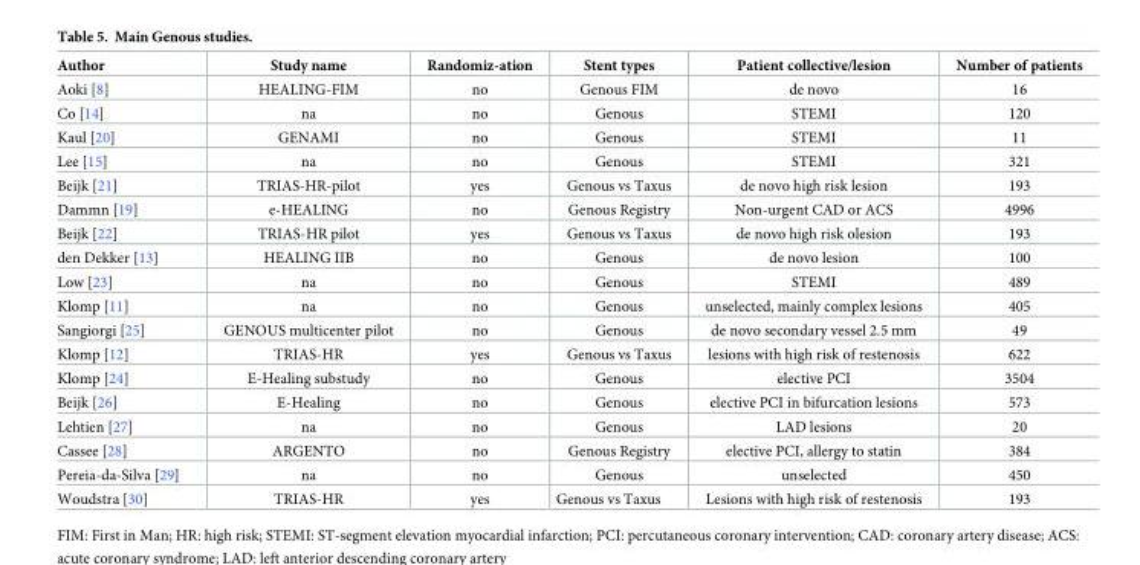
<table><thead><tr><td>Author</td><td>Study name</td><td>Randomiz-ation</td><td>Stent types</td><td>Patient collective/lesion</td><td>Number of patients</td></tr></thead><tbody><tr><td>Aoki [8]</td><td>HEALING-FIM</td><td>no</td><td>Genous FIM</td><td>de novo</td><td>16</td></tr><tr><td>Co [14]</td><td>na</td><td>no</td><td>Genous</td><td>STEMI</td><td>120</td></tr><tr><td>Kaul [20]</td><td>GENAMI</td><td>no</td><td>Genous</td><td>STEMI</td><td>11</td></tr><tr><td>Lee [15]</td><td>na</td><td>no</td><td>Genous</td><td>STEMI</td><td>321</td></tr><tr><td>Beijk [21]</td><td>TRIAS-HR-pilot</td><td>yes</td><td>Genous vs Taxus</td><td>de novo high risk lesion</td><td>193</td></tr><tr><td>Dammn [19]</td><td>e-HEALING</td><td>no</td><td>Genous Registry</td><td>Non-urgent CAD or ACS</td><td>4996</td></tr><tr><td>Beijk [22]</td><td>TRIAS-HR pilot</td><td>yes</td><td>Genous vs Taxus</td><td>de novo high risk olesion</td><td>193</td></tr><tr><td>den Dekker [13]</td><td>HEALING IIB</td><td>no</td><td>Genous</td><td>de novo lesion</td><td>100</td></tr><tr><td>Low [23]</td><td>na</td><td>no</td><td>Genous</td><td>STEMI</td><td>489</td></tr><tr><td>Klomp [11]</td><td>na</td><td>no</td><td>Genous</td><td>unselected, mainly complex lesions</td><td>405</td></tr><tr><td>Sangiorgi [25]</td><td>GENOUS multicenter pilot</td><td>no</td><td>Genous</td><td>de novo secondary vessel 2.5 mm</td><td>49</td></tr><tr><td>Klomp [12]</td><td>TRIAS-HR</td><td>yes</td><td>Genous vs Taxus</td><td>lesions with high risk of restenosis</td><td>622</td></tr><tr><td>Klomp [24]</td><td>E-Healing substudy</td><td>no</td><td>Genous</td><td>elective PCI</td><td>3504</td></tr><tr><td>Beijk [26]</td><td>E-Healing</td><td>no</td><td>Genous</td><td>elective PCI in bifurcation lesions</td><td>573</td></tr><tr><td>Lehtien [27]</td><td>na</td><td>no</td><td>Genous</td><td>LAD lesions</td><td>20</td></tr><tr><td>Cassee [28]</td><td>ARGENTO</td><td>no</td><td>Genous Registry</td><td>elective PCI, allergy to statin</td><td>384</td></tr><tr><td>Pereia-da-Silva [29]</td><td>na</td><td>no</td><td>Genous</td><td>unselected</td><td>450</td></tr><tr><td>Woudstra [30]</td><td>TRIAS-HR</td><td>yes</td><td>Genous vs Taxus</td><td>Lesions with high risk of restenosis</td><td>193</td></tr></tbody></table>